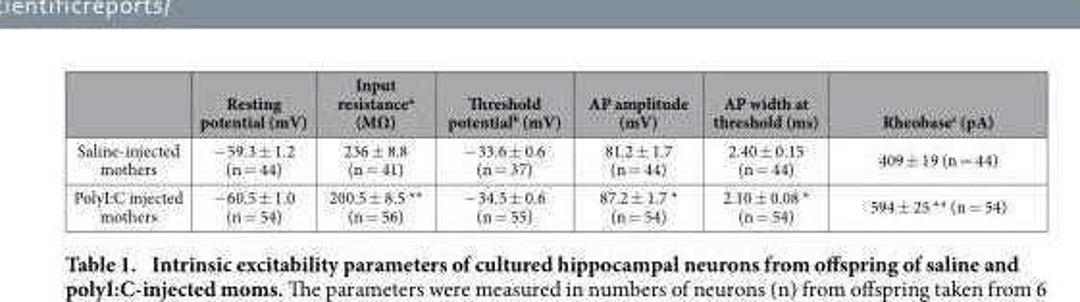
<table><thead><tr><td></td><td>Resting potential (mV)</td><td>Input resistance<sup>a</sup> (MΩ)</td><td>Threshold potential<sup>b</sup> (mV)</td><td>AP amplitude (mV)</td><td>AP width at threshold (ms)</td><td>Rheobase<sup>c</sup> (pA)</td></tr></thead><tbody><tr><td>Saline-injected mothers</td><td>− 59.3 ± 1.2 (n = 44)</td><td>236 ± 8.8 (n = 41)</td><td>− 33.6 ± 0.6 (n = 37)</td><td>81.2 ± 1.7 (n = 44)</td><td>2.40 ± 0.15 (n = 44)</td><td>409 ± 19 (n = 44)</td></tr><tr><td>PolyI:C injected mothers</td><td>− 60.5 ± 1.0 (n = 54)</td><td>200.5 ± 8.5 ** (n = 56)</td><td>− 34.5 ± 0.6 (n = 55)</td><td>87.2 ± 1.7 * (n = 54)</td><td>2.10 ± 0.08 * (n = 54)</td><td>594 ± 25 ** (n = 54)</td></tr></tbody></table>